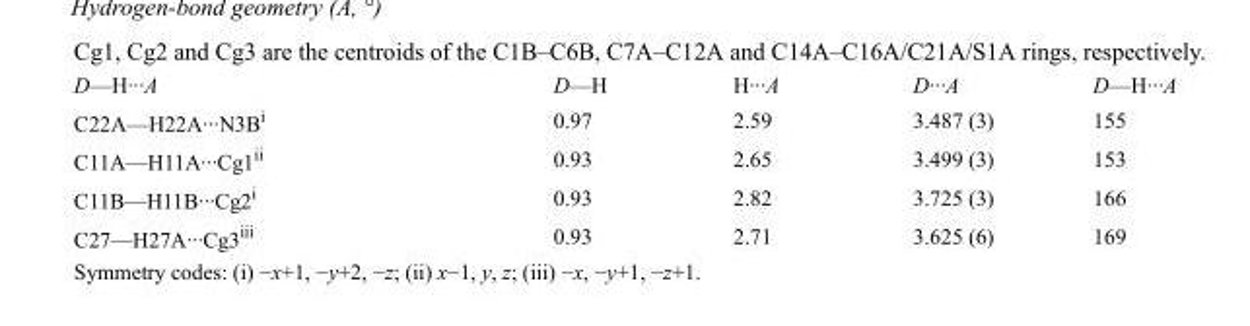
<table><tbody><tr><td>D—H···A</td><td>D—H</td><td>H···A</td><td>D···A</td><td>D—H···A</td></tr><tr><td>C22A—H22A···N3B<sup>i</sup></td><td>0.97</td><td>2.59</td><td>3.487 (3)</td><td>155</td></tr><tr><td>C11A—H11A···Cg1<sup>ii</sup></td><td>0.93</td><td>2.65</td><td>3.499 (3)</td><td>153</td></tr><tr><td>C11B—H11B···Cg2<sup>i</sup></td><td>0.93</td><td>2.82</td><td>3.725 (3)</td><td>166</td></tr><tr><td>C27—H27A···Cg3<sup>iii</sup></td><td>0.93</td><td>2.71</td><td>3.625 (6)</td><td>169</td></tr></tbody></table>